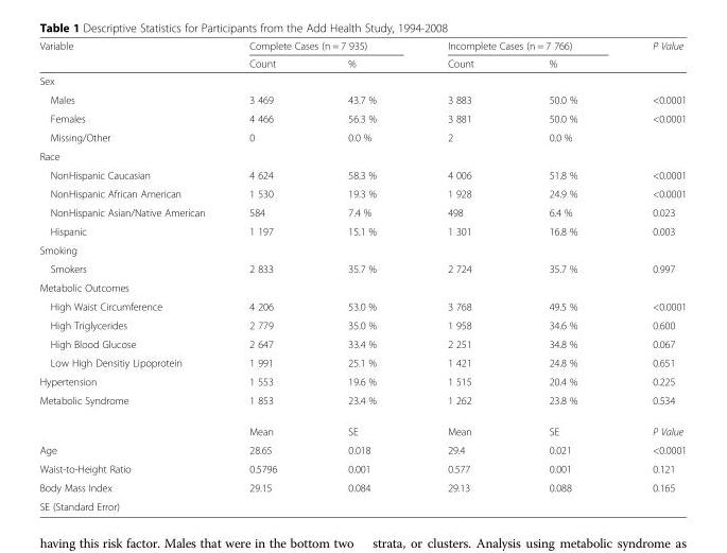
<table><thead><tr><td rowspan="2">Variable</td><td colspan="2">Complete Cases (n = 7 935)</td><td colspan="2">Incomplete Cases (n = 7 766)</td><td rowspan="2">P Value</td></tr><tr><td>Count</td><td>%</td><td>Count</td><td>%</td></tr></thead><tbody><tr><td colspan="6">Sex</td></tr><tr><td>Males</td><td>3 469</td><td>43.7 %</td><td>3 883</td><td>50.0 %</td><td>&lt;0.0001</td></tr><tr><td>Females</td><td>4 466</td><td>56.3 %</td><td>3 881</td><td>50.0 %</td><td>&lt;0.0001</td></tr><tr><td>Missing/Other</td><td>0</td><td>0.0 %</td><td>2</td><td>0.0 %</td><td></td></tr><tr><td colspan="6">Race</td></tr><tr><td>NonHispanic Caucasian</td><td>4 624</td><td>58.3 %</td><td>4 006</td><td>51.8 %</td><td>&lt;0.0001</td></tr><tr><td>NonHispanic African American</td><td>1 530</td><td>19.3 %</td><td>1 928</td><td>24.9 %</td><td>&lt;0.0001</td></tr><tr><td>NonHispanic Asian/Native American</td><td>584</td><td>7.4 %</td><td>498</td><td>6.4 %</td><td>0.023</td></tr><tr><td>Hispanic</td><td>1 197</td><td>15.1 %</td><td>1 301</td><td>16.8 %</td><td>0.003</td></tr><tr><td colspan="6">Smoking</td></tr><tr><td>Smokers</td><td>2 833</td><td>35.7 %</td><td>2 724</td><td>35.7 %</td><td>0.997</td></tr><tr><td colspan="6">Metabolic Outcomes</td></tr><tr><td>High Waist Circumference</td><td>4 206</td><td>53.0 %</td><td>3 768</td><td>49.5 %</td><td>&lt;0.0001</td></tr><tr><td>High Triglycerides</td><td>2 779</td><td>35.0 %</td><td>1 958</td><td>34.6 %</td><td>0.600</td></tr><tr><td>High Blood Glucose</td><td>2 647</td><td>33.4 %</td><td>2 251</td><td>34.8 %</td><td>0.067</td></tr><tr><td>Low High Densitiy Lipoprotein</td><td>1 991</td><td>25.1 %</td><td>1 421</td><td>24.8 %</td><td>0.651</td></tr><tr><td>Hypertension</td><td>1 553</td><td>19.6 %</td><td>1 515</td><td>20.4 %</td><td>0.225</td></tr><tr><td rowspan="2">Metabolic Syndrome</td><td>1 853</td><td>23.4 %</td><td>1 262</td><td>23.8 %</td><td>0.534</td></tr><tr><td>Mean</td><td>SE</td><td>Mean</td><td>SE</td><td>P Value</td></tr><tr><td>Age</td><td>28.65</td><td>0.018</td><td>29.4</td><td>0.021</td><td>&lt;0.0001</td></tr><tr><td>Waist-to-Height Ratio</td><td>0.5796</td><td>0.001</td><td>0.577</td><td>0.001</td><td>0.121</td></tr><tr><td>Body Mass Index</td><td>29.15</td><td>0.084</td><td>29.13</td><td>0.088</td><td>0.165</td></tr><tr><td>SE (Standard Error)</td><td></td><td></td><td></td><td></td><td></td></tr></tbody></table>